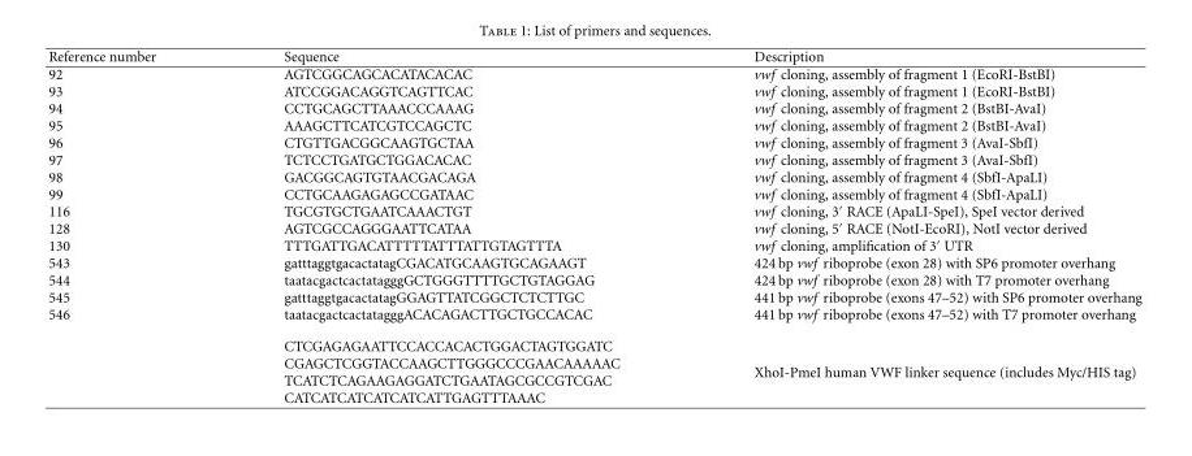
<table><thead><tr><td>Reference number</td><td>Sequence</td><td>Description</td></tr></thead><tbody><tr><td>92</td><td>AGTCGGCAGCACATACACAC</td><td>vwf cloning, assembly of fragment 1 (EcoRI-BstBI)</td></tr><tr><td>93</td><td>ATCCGGACAGGTCAGTTCAC</td><td>vwf cloning, assembly of fragment 1 (EcoRI-BstBI)</td></tr><tr><td>94</td><td>CCTGCAGCTTAAACCCAAAG</td><td>vwf cloning, assembly of fragment 2 (BstBI-AvaI)</td></tr><tr><td>95</td><td>AAAGCTTCATCGTCCAGCTC</td><td>vwf cloning, assembly of fragment 2 (BstBI-AvaI)</td></tr><tr><td>96</td><td>CTGTTGACGGCAAGTGCTAA</td><td>vwf cloning, assembly of fragment 3 (AvaI-SbfI)</td></tr><tr><td>97</td><td>TCTCCTGATGCTGGACACAC</td><td>vwf cloning, assembly of fragment 3 (AvaI-SbfI)</td></tr><tr><td>98</td><td>GACGGCAGTGTAACGACAGA</td><td>vwf cloning, assembly of fragment 4 (SbfI-ApaLI)</td></tr><tr><td>99</td><td>CCTGCAAGAGAGCCGATAAC</td><td>vwf cloning, assembly of fragment 4 (SbfI-ApaLI)</td></tr><tr><td>116</td><td>TGCGTGCTGAATCAAACTGT</td><td>vwf cloning, 3′ RACE (ApaLI-SpeI), SpeI vector derived</td></tr><tr><td>128</td><td>AGTCGCCAGGGAATTCATAA</td><td>vwf cloning, 5′ RACE (NotI-EcoRI), NotI vector derived</td></tr><tr><td>130</td><td>TTTGATTGACATTTTTATTTATTGTAGTTTA</td><td>vwf cloning, amplification of 3′ UTR</td></tr><tr><td>543</td><td>gatttaggtgacactatagCGACATGCAAGTGCAGAAGT</td><td>424 bp vwf riboprobe (exon 28) with SP6 promoter overhang</td></tr><tr><td>544</td><td>taatacgactcactatagggGCTGGGTTTTGCTGTAGGAG</td><td>424 bp vwf riboprobe (exon 28) with T7 promoter overhang</td></tr><tr><td>545</td><td>gatttaggtgacactatagGGAGTTATCGGCTCTCTTGC</td><td>441 bp vwf riboprobe (exons 47–52) with SP6 promoter overhang</td></tr><tr><td rowspan="5">546</td><td>taatacgactcactatagggACACAGACTTGCTGCCACAC</td><td>441 bp vwf riboprobe (exons 47–52) with T7 promoter overhang</td></tr><tr><td>CTCGAGAGAATTCCACCACACTGGACTAGTGGATC</td><td rowspan="4">XhoI-PmeI human VWF linker sequence (includes Myc/HIS tag)</td></tr><tr><td>CGAGCTCGGTACCAAGCTTGGGCCCGAACAAAAAC</td></tr><tr><td>TCATCTCAGAAGAGGATCTGAATAGCGCCGTCGAC</td></tr><tr><td>CATCATCATCATCATCATTGAGTTTAAAC</td></tr></tbody></table>